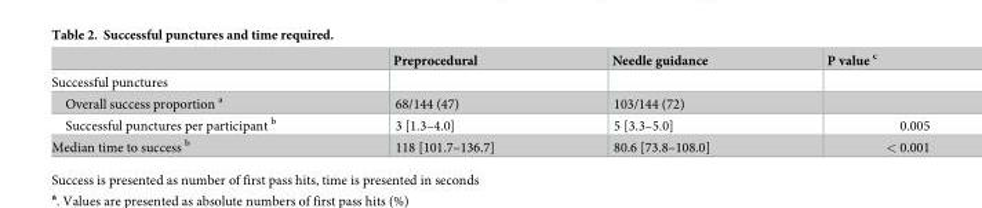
<table><thead><tr><td></td><td>Preprocedural</td><td>Needle guidance</td><td>P value <sup>c</sup></td></tr></thead><tbody><tr><td colspan="4">Successful punctures</td></tr><tr><td>Overall success proportion <sup>a</sup></td><td>68/144 (47)</td><td>103/144 (72)</td><td></td></tr><tr><td>Successful punctures per participant <sup>b</sup></td><td>3 [1.3–4.0]</td><td>5 [3.3–5.0]</td><td>0.005</td></tr><tr><td>Median time to success <sup>b</sup></td><td>118 [101.7–136.7]</td><td>80.6 [73.8–108.0]</td><td>&lt; 0.001</td></tr></tbody></table>